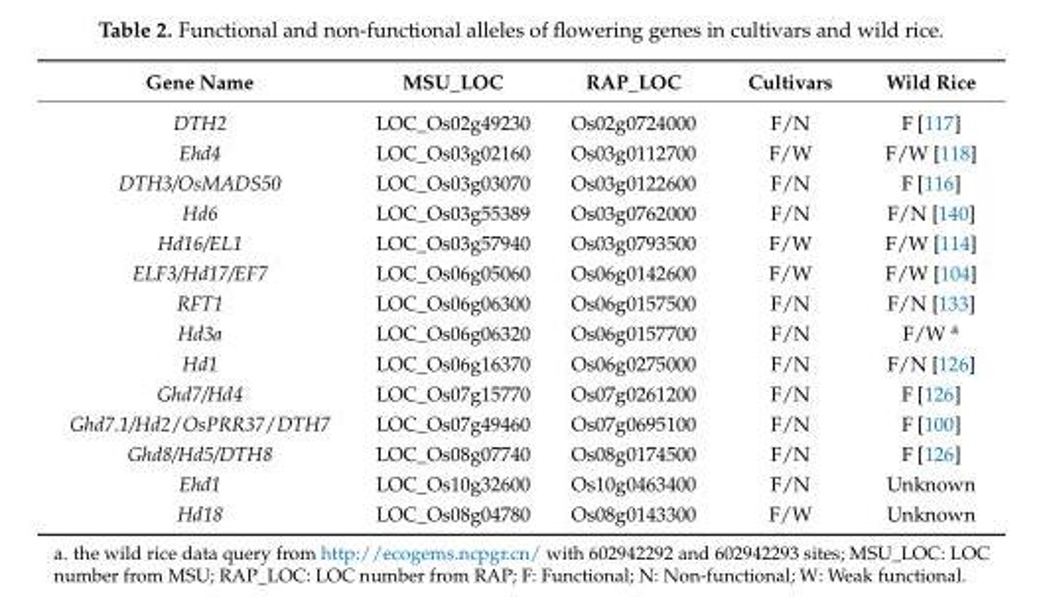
<table><thead><tr><td>Gene Name</td><td>MSU_LOC</td><td>RAP_LOC</td><td>Cultivars</td><td>Wild Rice</td></tr></thead><tbody><tr><td>DTH2</td><td>LOC_Os02g49230</td><td>Os02g0724000</td><td>F/N</td><td>F [117]</td></tr><tr><td>Ehd4</td><td>LOC_Os03g02160</td><td>Os03g0112700</td><td>F/W</td><td>F/W [118]</td></tr><tr><td>DTH3/OsMADS50</td><td>LOC_Os03g03070</td><td>Os03g0122600</td><td>F/N</td><td>F [116]</td></tr><tr><td>Hd6</td><td>LOC_Os03g55389</td><td>Os03g0762000</td><td>F/N</td><td>F/N [140]</td></tr><tr><td>Hd16/EL1</td><td>LOC_Os03g57940</td><td>Os03g0793500</td><td>F/W</td><td>F/W [114]</td></tr><tr><td>ELF3/Hd17/EF7</td><td>LOC_Os06g05060</td><td>Os06g0142600</td><td>F/W</td><td>F/W [104]</td></tr><tr><td>RFT1</td><td>LOC_Os06g06300</td><td>Os06g0157500</td><td>F/N</td><td>F/N [133]</td></tr><tr><td>Hd3a</td><td>LOC_Os06g06320</td><td>Os06g0157700</td><td>F/N</td><td>F/W <sup>a</sup></td></tr><tr><td>Hd1</td><td>LOC_Os06g16370</td><td>Os06g0275000</td><td>F/N</td><td>F/N [126]</td></tr><tr><td>Ghd7/Hd4</td><td>LOC_Os07g15770</td><td>Os07g0261200</td><td>F/N</td><td>F [126]</td></tr><tr><td>Ghd7.1/Hd2/OsPRR37/DTH7</td><td>LOC_Os07g49460</td><td>Os07g0695100</td><td>F/N</td><td>F [100]</td></tr><tr><td>Ghd8/Hd5/DTH8</td><td>LOC_Os08g07740</td><td>Os08g0174500</td><td>F/N</td><td>F [126]</td></tr><tr><td>Ehd1</td><td>LOC_Os10g32600</td><td>Os10g0463400</td><td>F/N</td><td>Unknown</td></tr><tr><td>Hd18</td><td>LOC_Os08g04780</td><td>Os08g0143300</td><td>F/W</td><td>Unknown</td></tr></tbody></table>